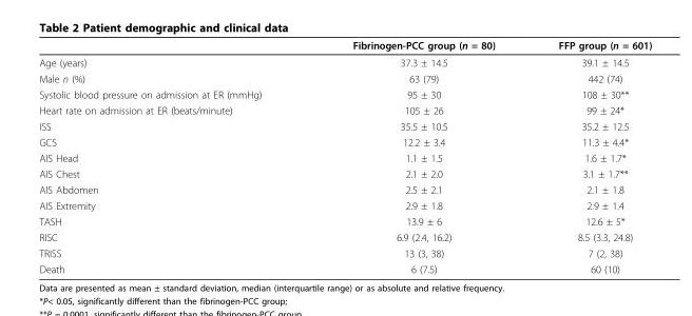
<table><thead><tr><td></td><td>Fibrinogen-PCC group (n = 80)</td><td>FFP group (n = 601)</td></tr></thead><tbody><tr><td>Age (years)</td><td>37.3 ± 14.5</td><td>39.1 ± 14.5</td></tr><tr><td>Male n (%)</td><td>63 (79)</td><td>442 (74)</td></tr><tr><td>Systolic blood pressure on admission at ER (mmHg)</td><td>95 ± 30</td><td>108 ± 30**</td></tr><tr><td>Heart rate on admission at ER (beats/minute)</td><td>105 ± 26</td><td>99 ± 24*</td></tr><tr><td>ISS</td><td>35.5 ± 10.5</td><td>35.2 ± 12.5</td></tr><tr><td>GCS</td><td>12.2 ± 3.4</td><td>11.3 ± 4.4*</td></tr><tr><td>AIS Head</td><td>1.1 ± 1.5</td><td>1.6 ± 1.7*</td></tr><tr><td>AIS Chest</td><td>2.1 ± 2.0</td><td>3.1 ± 1.7**</td></tr><tr><td>AIS Abdomen</td><td>2.5 ± 2.1</td><td>2.1 ± 1.8</td></tr><tr><td>AIS Extremity</td><td>2.9 ± 1.8</td><td>2.9 ± 1.4</td></tr><tr><td>TASH</td><td>13.9 ± 6</td><td>12.6 ± 5*</td></tr><tr><td>RISC</td><td>6.9 (2.4, 16.2)</td><td>8.5 (3.3, 24.8)</td></tr><tr><td>TRISS</td><td>13 (3, 38)</td><td>7 (2, 38)</td></tr><tr><td>Death</td><td>6 (7.5)</td><td>60 (10)</td></tr></tbody></table>